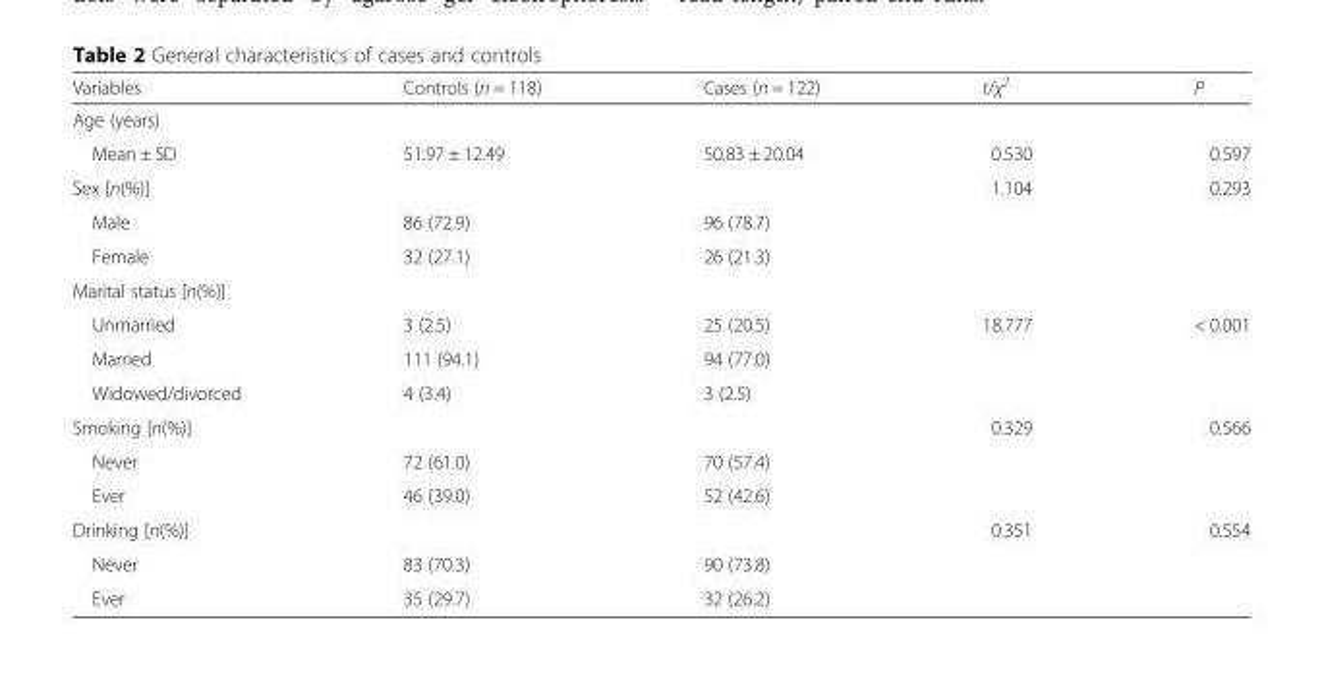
<table><thead><tr><td>Variables</td><td>Controls (n = 118)</td><td>Cases (n = 122)</td><td>t/χ<sup>2</sup></td><td>P</td></tr></thead><tbody><tr><td colspan="5">Age (years)</td></tr><tr><td>Mean ± SD</td><td>51.97 ± 12.49</td><td>50.83 ± 20.04</td><td>0.530</td><td>0.597</td></tr><tr><td colspan="3">Sex [n(%)]</td><td>1.104</td><td>0.293</td></tr><tr><td>Male</td><td>86 (72.9)</td><td>96 (78.7)</td><td></td><td></td></tr><tr><td>Female</td><td>32 (27.1)</td><td>26 (21.3)</td><td></td><td></td></tr><tr><td colspan="5">Marital status [n(%)]</td></tr><tr><td>Unmarried</td><td>3 (2.5)</td><td>25 (20.5)</td><td>18.777</td><td>&lt; 0.001</td></tr><tr><td>Married</td><td>111 (94.1)</td><td>94 (77.0)</td><td></td><td></td></tr><tr><td>Widowed/divorced</td><td>4 (3.4)</td><td>3 (2.5)</td><td></td><td></td></tr><tr><td colspan="3">Smoking [n(%)]</td><td>0.329</td><td>0.566</td></tr><tr><td>Never</td><td>72 (61.0)</td><td>70 (57.4)</td><td></td><td></td></tr><tr><td>Ever</td><td>46 (39.0)</td><td>52 (42.6)</td><td></td><td></td></tr><tr><td colspan="3">Drinking [n(%)]</td><td>0.351</td><td>0.554</td></tr><tr><td>Never</td><td>83 (70.3)</td><td>90 (73.8)</td><td></td><td></td></tr><tr><td>Ever</td><td>35 (29.7)</td><td>32 (26.2)</td><td></td><td></td></tr></tbody></table>